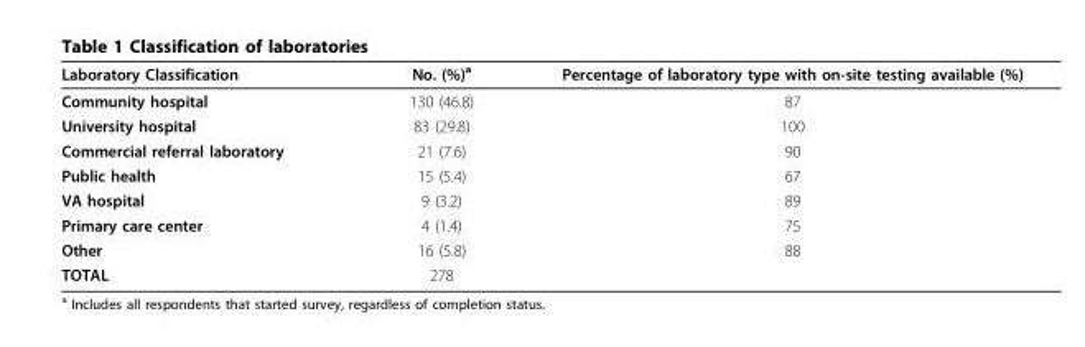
<table><thead><tr><td>Laboratory Classification</td><td>No. (%)<sup>a</sup></td><td>Percentage of laboratory type with on-site testing available (%)</td></tr></thead><tbody><tr><td>Community hospital</td><td>130 (46.8)</td><td>87</td></tr><tr><td>University hospital</td><td>83 (29.8)</td><td>100</td></tr><tr><td>Commercial referral laboratory</td><td>21 (7.6)</td><td>90</td></tr><tr><td>Public health</td><td>15 (5.4)</td><td>67</td></tr><tr><td>VA hospital</td><td>9 (3.2)</td><td>89</td></tr><tr><td>Primary care center</td><td>4 (1.4)</td><td>75</td></tr><tr><td>Other</td><td>16 (5.8)</td><td>88</td></tr><tr><td>TOTAL</td><td>278</td><td></td></tr></tbody></table>